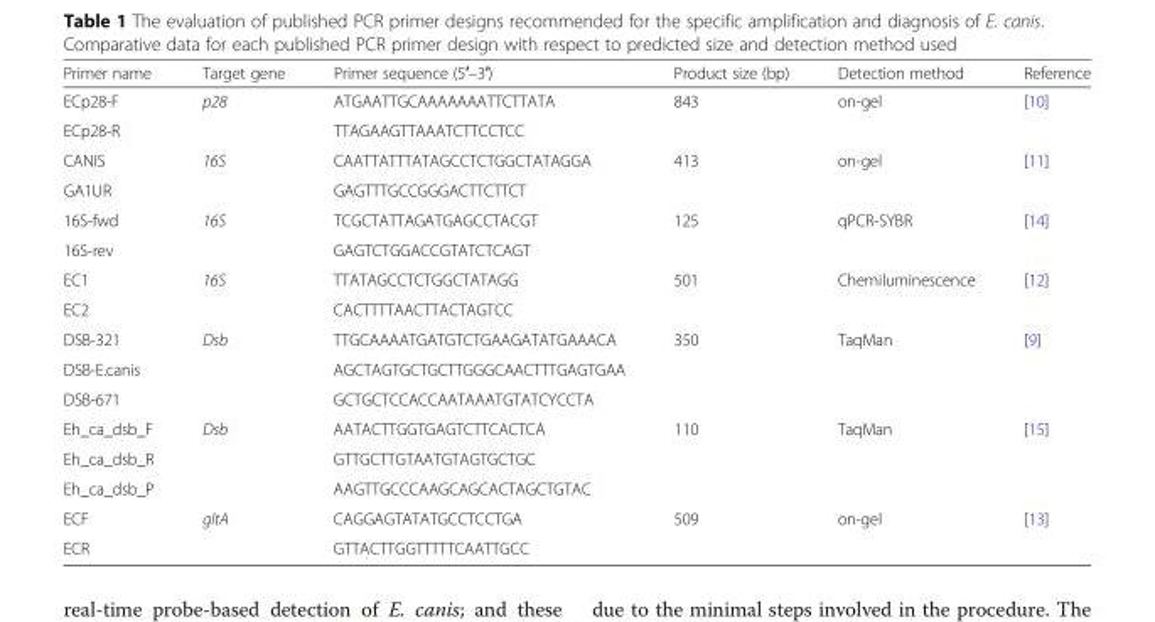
<table><thead><tr><td>Primer name</td><td>Target gene</td><td>Primer sequence (5′–3′)</td><td>Product size (bp)</td><td>Detection method</td><td>Reference</td></tr></thead><tbody><tr><td>ECp28-F</td><td rowspan="2">p28</td><td>ATGAATTGCAAAAAAATTCTTATA</td><td rowspan="2">843</td><td rowspan="2">on-gel</td><td rowspan="2">[10]</td></tr><tr><td>ECp28-R</td><td>TTAGAAGTTAAATCTTCCTCC</td></tr><tr><td>CANIS</td><td rowspan="2">16S</td><td>CAATTATTTATAGCCTCTGGCTATAGGA</td><td rowspan="2">413</td><td rowspan="2">on-gel</td><td rowspan="2">[11]</td></tr><tr><td>GA1UR</td><td>GAGTTTGCCGGGACTTCTTCT</td></tr><tr><td>16S-fwd</td><td rowspan="2">16S</td><td>TCGCTATTAGATGAGCCTACGT</td><td rowspan="2">125</td><td rowspan="2">qPCR-SYBR</td><td rowspan="2">[14]</td></tr><tr><td>16S-rev</td><td>GAGTCTGGACCGTATCTCAGT</td></tr><tr><td>EC1</td><td rowspan="2">16S</td><td>TTATAGCCTCTGGCTATAGG</td><td rowspan="2">501</td><td rowspan="2">Chemiluminescence</td><td rowspan="2">[12]</td></tr><tr><td>EC2</td><td>CACTTTTAACTTACTAGTCC</td></tr><tr><td>DSB-321</td><td rowspan="3">Dsb</td><td>TTGCAAAATGATGTCTGAAGATATGAAACA</td><td rowspan="3">350</td><td rowspan="3">TaqMan</td><td rowspan="3">[9]</td></tr><tr><td>DSB-E.canis</td><td>AGCTAGTGCTGCTTGGGCAACTTTGAGTGAA</td></tr><tr><td>DSB-671</td><td>GCTGCTCCACCAATAAATGTATCYCCTA</td></tr><tr><td>Eh_ca_dsb_F</td><td rowspan="3">Dsb</td><td>AATACTTGGTGAGTCTTCACTCA</td><td rowspan="3">110</td><td rowspan="3">TaqMan</td><td rowspan="3">[15]</td></tr><tr><td>Eh_ca_dsb_R</td><td>GTTGCTTGTAATGTAGTGCTGC</td></tr><tr><td>Eh_ca_dsb_P</td><td>AAGTTGCCCAAGCAGCACTAGCTGTAC</td></tr><tr><td>ECF</td><td rowspan="2">gltA</td><td>CAGGAGTATATGCCTCCTGA</td><td rowspan="2">509</td><td rowspan="2">on-gel</td><td rowspan="2">[13]</td></tr><tr><td>ECR</td><td>GTTACTTGGTTTTTCAATTGCC</td></tr></tbody></table>